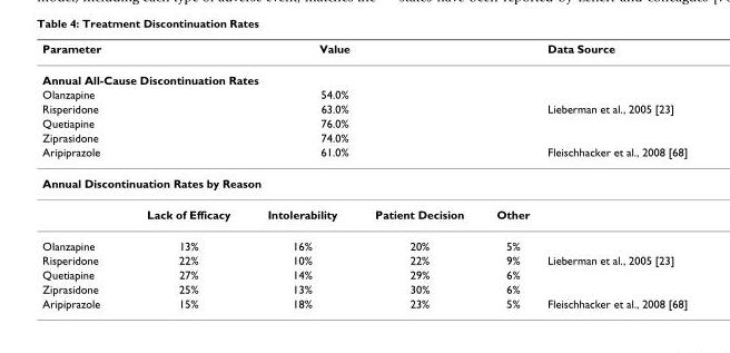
<table><thead><tr><td>Parameter</td><td colspan="4">Value</td><td>Data Source</td></tr></thead><tbody><tr><td colspan="6">Annual All-Cause Discontinuation Rates</td></tr><tr><td>Olanzapine</td><td colspan="4">54.0%</td><td></td></tr><tr><td>Risperidone</td><td colspan="4">63.0%</td><td>Lieberman et al., 2005 [23]</td></tr><tr><td>Quetiapine</td><td colspan="4">76.0%</td><td></td></tr><tr><td>Ziprasidone</td><td colspan="4">74.0%</td><td></td></tr><tr><td>Aripiprazole</td><td colspan="4">61.0%</td><td>Fleischhacker et al., 2008 [68]</td></tr><tr><td colspan="6">Annual Discontinuation Rates by Reason</td></tr><tr><td></td><td>Lack of Efficacy</td><td>Intolerability</td><td>Patient Decision</td><td>Other</td><td></td></tr><tr><td>Olanzapine</td><td>13%</td><td>16%</td><td>20%</td><td>5%</td><td></td></tr><tr><td>Risperidone</td><td>22%</td><td>10%</td><td>22%</td><td>9%</td><td>Lieberman et al., 2005 [23]</td></tr><tr><td>Quetiapine</td><td>27%</td><td>14%</td><td>29%</td><td>6%</td><td></td></tr><tr><td>Ziprasidone</td><td>25%</td><td>13%</td><td>30%</td><td>6%</td><td></td></tr><tr><td>Aripiprazole</td><td>15%</td><td>18%</td><td>23%</td><td>5%</td><td>Fleischhacker et al., 2008 [68]</td></tr></tbody></table>